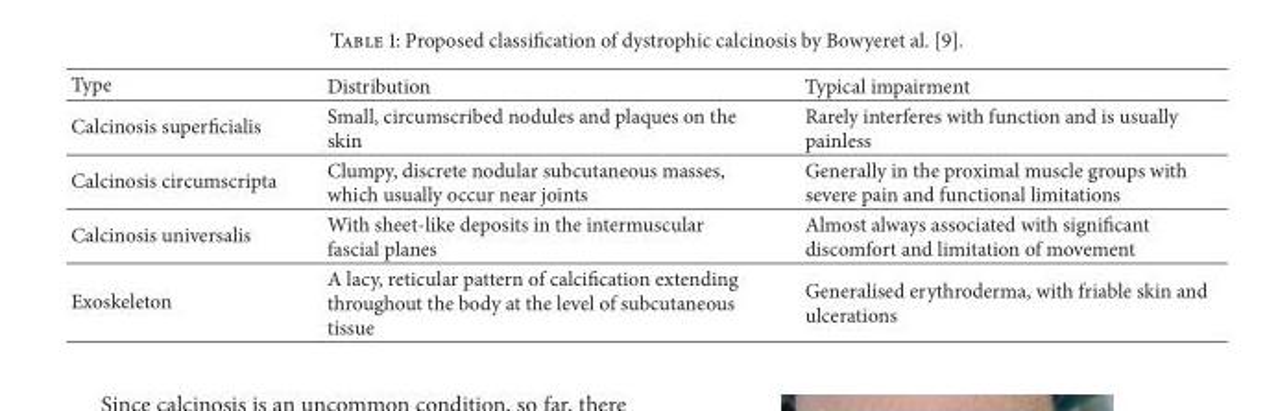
<table><thead><tr><td>Type</td><td>Distribution</td><td>Typical impairment</td></tr></thead><tbody><tr><td>Calcinosis superficialis</td><td>Small, circumscribed nodules and plaques on the skin</td><td>Rarely interferes with function and is usually painless</td></tr><tr><td>Calcinosis circumscripta</td><td>Clumpy, discrete nodular subcutaneous masses, which usually occur near joints</td><td>Generally in the proximal muscle groups with severe pain and functional limitations</td></tr><tr><td>Calcinosis universalis</td><td>With sheet-like deposits in the intermuscular fascial planes</td><td>Almost always associated with significant discomfort and limitation of movement</td></tr><tr><td>Exoskeleton</td><td>A lacy, reticular pattern of calcification extending throughout the body at the level of subcutaneous tissue</td><td>Generalised erythroderma, with friable skin and ulcerations</td></tr></tbody></table>